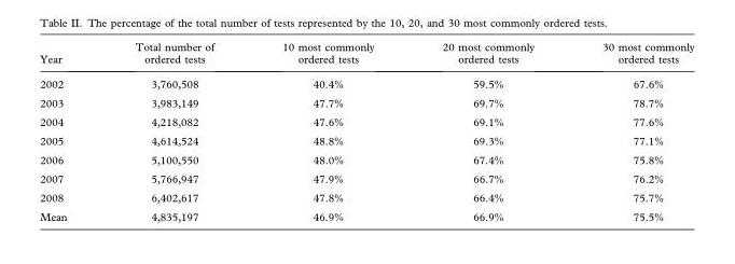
<table><thead><tr><td>Year</td><td>Total number of ordered tests</td><td>10 most commonly ordered tests</td><td>20 most commonly ordered tests</td><td>30 most commonly ordered tests</td></tr></thead><tbody><tr><td>2002</td><td>3,760,508</td><td>40.4%</td><td>59.5%</td><td>67.6%</td></tr><tr><td>2003</td><td>3,983,149</td><td>47.7%</td><td>69.7%</td><td>78.7%</td></tr><tr><td>2004</td><td>4,218,082</td><td>47.6%</td><td>69.1%</td><td>77.6%</td></tr><tr><td>2005</td><td>4,614,524</td><td>48.8%</td><td>69.3%</td><td>77.1%</td></tr><tr><td>2006</td><td>5,100,550</td><td>48.0%</td><td>67.4%</td><td>75.8%</td></tr><tr><td>2007</td><td>5,766,947</td><td>47.9%</td><td>66.7%</td><td>76.2%</td></tr><tr><td>2008</td><td>6,402,617</td><td>47.8%</td><td>66.4%</td><td>75.7%</td></tr><tr><td>Mean</td><td>4,835,197</td><td>46.9%</td><td>66.9%</td><td>75.5%</td></tr></tbody></table>